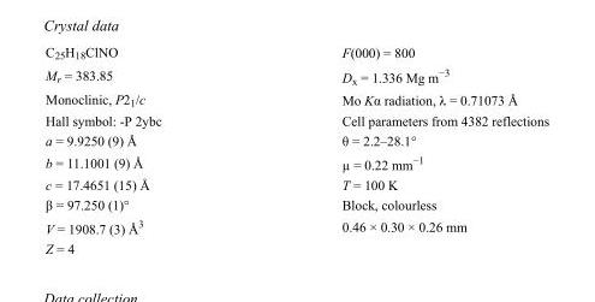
<table><tbody><tr><td>C<sub>25</sub>H<sub>18</sub>ClNO</td><td>F(000) = 800</td></tr><tr><td>M<sub>r</sub> = 383.85</td><td>D<sub>x</sub> = 1.336 Mg m<sup>−3</sup></td></tr><tr><td>Monoclinic, P2<sub>1</sub>/c</td><td>Mo Kα radiation, λ = 0.71073 Å</td></tr><tr><td>Hall symbol: -P 2ybc</td><td>Cell parameters from 4382 reflections</td></tr><tr><td>a = 9.9250 (9) Å</td><td>θ = 2.2–28.1°</td></tr><tr><td>b = 11.1001 (9) Å</td><td>µ = 0.22 mm<sup>−1</sup></td></tr><tr><td>c = 17.4651 (15) Å</td><td>T = 100 K</td></tr><tr><td>β = 97.250 (1)°</td><td>Block, colourless</td></tr><tr><td>V = 1908.7 (3) Å<sup>3</sup></td><td>0.46 × 0.30 × 0.26 mm</td></tr><tr><td>Z = 4</td><td></td></tr></tbody></table>